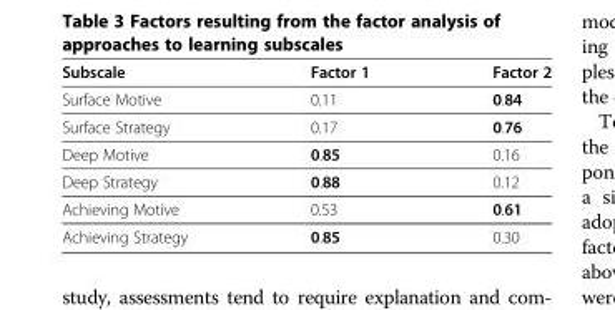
<table><thead><tr><td>Subscale</td><td>Factor 1</td><td>Factor 2</td></tr></thead><tbody><tr><td>Surface Motive</td><td>0.11</td><td>0.84</td></tr><tr><td>Surface Strategy</td><td>0.17</td><td>0.76</td></tr><tr><td>Deep Motive</td><td>0.85</td><td>0.16</td></tr><tr><td>Deep Strategy</td><td>0.88</td><td>0.12</td></tr><tr><td>Achieving Motive</td><td>0.53</td><td>0.61</td></tr><tr><td>Achieving Strategy</td><td>0.85</td><td>0.30</td></tr></tbody></table>